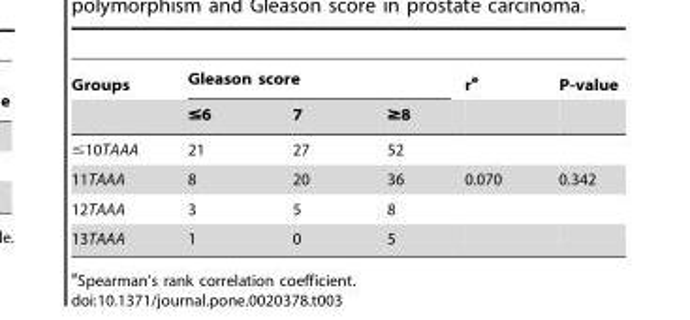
<table><thead><tr><td rowspan="2">Groups</td><td colspan="3">Gleason score</td><td rowspan="2">r<sup>e</sup></td><td rowspan="2">P-value</td></tr><tr><td>≤6</td><td>7</td><td>≥8</td></tr></thead><tbody><tr><td>≤10TAAA</td><td>21</td><td>27</td><td>52</td><td></td><td></td></tr><tr><td>11TAAA</td><td>8</td><td>20</td><td>36</td><td>0.070</td><td>0.342</td></tr><tr><td>12TAAA</td><td>3</td><td>5</td><td>8</td><td></td><td></td></tr><tr><td>13TAAA</td><td>1</td><td>0</td><td>5</td><td></td><td></td></tr></tbody></table>